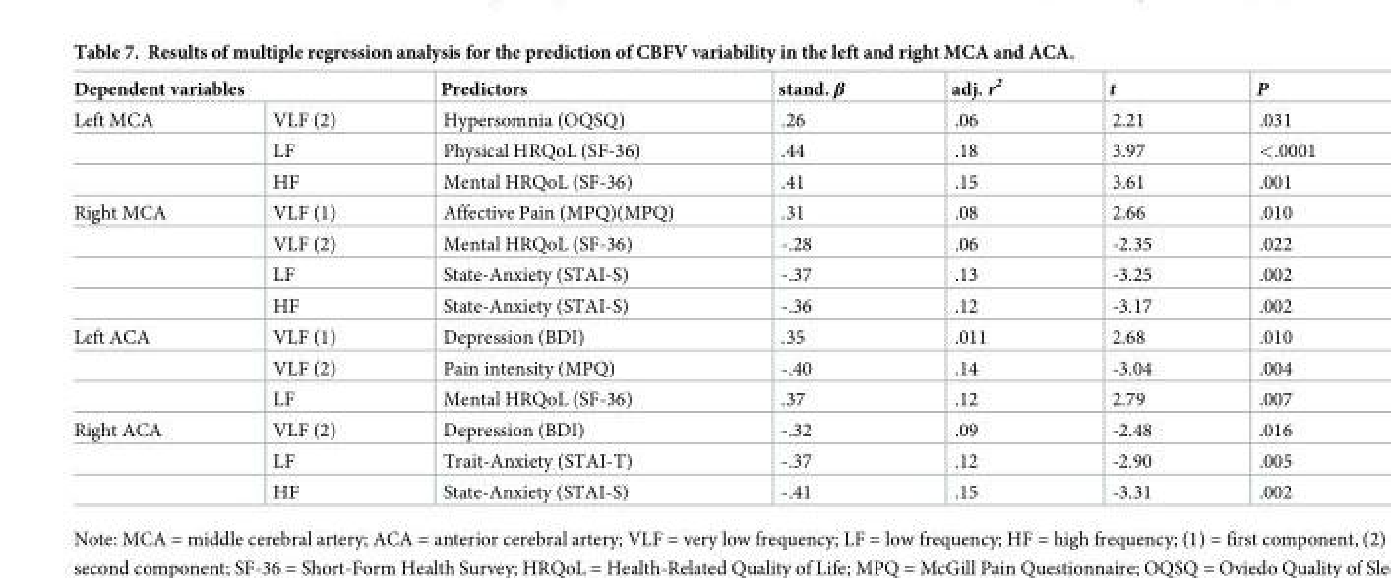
<table><thead><tr><td colspan="2">Dependent variables</td><td rowspan="2">Predictors Hypersomnia (OQSQ)</td><td rowspan="2">stand. β .26</td><td rowspan="2">adj. r<sup>2</sup> .06</td><td rowspan="2">t 2.21</td><td rowspan="2">P .031</td></tr><tr><td>Left MCA</td><td>VLF (2)</td></tr></thead><tbody><tr><td></td><td>LF</td><td>Physical HRQoL (SF-36)</td><td>.44</td><td>.18</td><td>3.97</td><td>&lt;.0001</td></tr><tr><td></td><td>HF</td><td>Mental HRQoL (SF-36)</td><td>.41</td><td>.15</td><td>3.61</td><td>.001</td></tr><tr><td rowspan="4">Right MCA</td><td>VLF (1)</td><td>Affective Pain (MPQ)(MPQ)</td><td>.31</td><td>.08</td><td>2.66</td><td>.010</td></tr><tr><td>VLF (2)</td><td>Mental HRQoL (SF-36)</td><td>-.28</td><td>.06</td><td>-2.35</td><td>.022</td></tr><tr><td>LF</td><td>State-Anxiety (STAI-S)</td><td>-.37</td><td>.13</td><td>-3.25</td><td>.002</td></tr><tr><td>HF</td><td>State-Anxiety (STAI-S)</td><td>-.36</td><td>.12</td><td>-3.17</td><td>.002</td></tr><tr><td rowspan="3">Left ACA</td><td>VLF (1)</td><td>Depression (BDI)</td><td>.35</td><td>.011</td><td>2.68</td><td>.010</td></tr><tr><td>VLF (2)</td><td>Pain intensity (MPQ)</td><td>-.40</td><td>.14</td><td>-3.04</td><td>.004</td></tr><tr><td>LF</td><td>Mental HRQoL (SF-36)</td><td>.37</td><td>.12</td><td>2.79</td><td>.007</td></tr><tr><td rowspan="3">Right ACA</td><td>VLF (2)</td><td>Depression (BDI)</td><td>-.32</td><td>.09</td><td>-2.48</td><td>.016</td></tr><tr><td>LF</td><td>Trait-Anxiety (STAI-T)</td><td>-.37</td><td>.12</td><td>-2.90</td><td>.005</td></tr><tr><td>HF</td><td>State-Anxiety (STAI-S)</td><td>-.41</td><td>.15</td><td>-3.31</td><td>.002</td></tr></tbody></table>